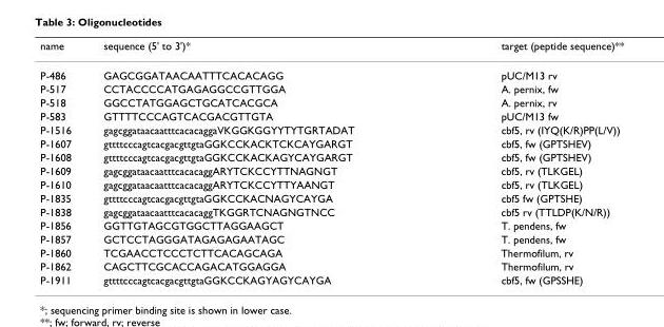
<table><thead><tr><td>name</td><td>sequence (5&#x27; to 3&#x27;)*</td><td>target (peptide sequence)**</td></tr></thead><tbody><tr><td>P-486</td><td>GAGCGGATAACAATTTCACACAGG</td><td>pUC/M13 rv</td></tr><tr><td>P-517</td><td>CCTACCCCATGAGAGGCCGTTGGA</td><td>A. pernix, fw</td></tr><tr><td>P-518</td><td>GGCCTATGGAGCTGCATCACGCA</td><td>A. pernix, rv</td></tr><tr><td>P-583</td><td>GTTTTCCCAGTCACGACGTTGTA</td><td>pUC/M13 fw</td></tr><tr><td>P-1516</td><td>gagcggataacaatttcacacaggaVKGGKGGYYTYTGRTADAT</td><td>cbf5, rv (IYQ(K/R)PP(L/V))</td></tr><tr><td>P-1607</td><td>gttttcccagtcacgacgttgtaGGKCCKACKTCKCAYGARGT</td><td>cbf5, fw (GPTSHEV)</td></tr><tr><td>P-1608</td><td>gttttcccagtcacgacgttgtaGGKCCKACKAGYCAYGARGT</td><td>cbf5, fw (GPTSHEV)</td></tr><tr><td>P-1609</td><td>gagcggataacaatttcacacaggARYTCKCCYTTNAGNGT</td><td>cbf5, rv (TLKGEL)</td></tr><tr><td>P-1610</td><td>gagcggataacaatttcacacaggARYTCKCCYTTYAANGT</td><td>cbf5, rv (TLKGEL)</td></tr><tr><td>P-1835</td><td>gttttcccagtcacgacgttgtaGGKCCKACNAGYCAYGA</td><td>cbf5 fw (GPTSHE)</td></tr><tr><td>P-1838</td><td>gagcggataacaatttcacacaggTKGGRTCNAGNGTNCC</td><td>cbf5 rv (TTLDP(K/N/R))</td></tr><tr><td>P-1856</td><td>GGTTGTAGCGTGGCTTAGGAAGCT</td><td>T. pendens, fw</td></tr><tr><td>P-1857</td><td>GCTCCTAGGGATAGAGAGAATAGC</td><td>T. pendens, fw</td></tr><tr><td>P-1860</td><td>TCGAACCTCCCTCTTCACAGCAGA</td><td>Thermofilum, rv</td></tr><tr><td>P-1862</td><td>CAGCTTCGCACCAGACATGGAGGA</td><td>Thermofilum, rv</td></tr><tr><td>P-1911</td><td>gttttcccagtcacgacgttgtaGGKCCKAGYAGYCAYGA</td><td>cbf5, fw (GPSSHE)</td></tr></tbody></table>